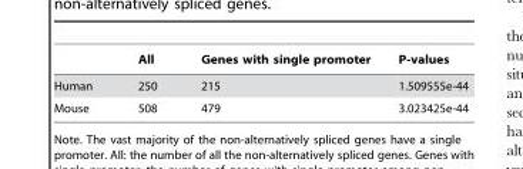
<table><thead><tr><td></td><td>All</td><td>Genes with single promoter</td><td>P-values</td></tr></thead><tbody><tr><td>Human</td><td>250</td><td>215</td><td>1.509555e-44</td></tr><tr><td>Mouse</td><td>508</td><td>479</td><td>3.023425e-44</td></tr></tbody></table>